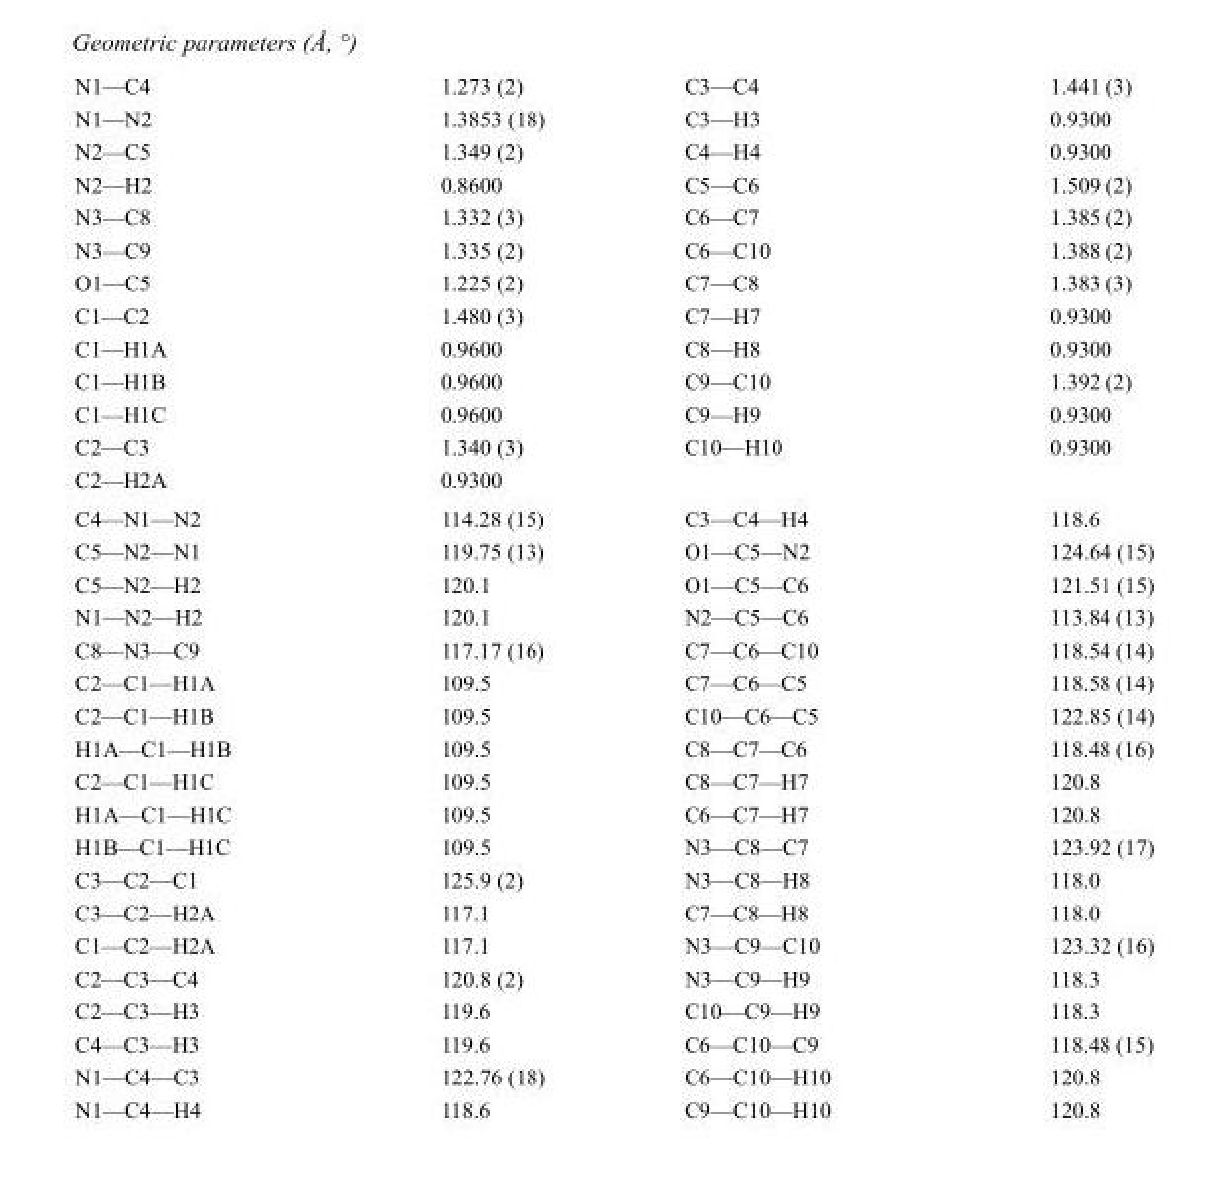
<table><tbody><tr><td>N1—C4</td><td>1.273 (2)</td><td>C3—C4</td><td>1.441 (3)</td></tr><tr><td>N1—N2</td><td>1.3853 (18)</td><td>C3—H3</td><td>0.9300</td></tr><tr><td>N2—C5</td><td>1.349 (2)</td><td>C4—H4</td><td>0.9300</td></tr><tr><td>N2—H2</td><td>0.8600</td><td>C5—C6</td><td>1.509 (2)</td></tr><tr><td>N3—C8</td><td>1.332 (3)</td><td>C6—C7</td><td>1.385 (2)</td></tr><tr><td>N3—C9</td><td>1.335 (2)</td><td>C6—C10</td><td>1.388 (2)</td></tr><tr><td>O1—C5</td><td>1.225 (2)</td><td>C7—C8</td><td>1.383 (3)</td></tr><tr><td>C1—C2</td><td>1.480 (3)</td><td>C7—H7</td><td>0.9300</td></tr><tr><td>C1—H1A</td><td>0.9600</td><td>C8—H8</td><td>0.9300</td></tr><tr><td>C1—H1B</td><td>0.9600</td><td>C9—C10</td><td>1.392 (2)</td></tr><tr><td>C1—H1C</td><td>0.9600</td><td>C9—H9</td><td>0.9300</td></tr><tr><td>C2—C3</td><td>1.340 (3)</td><td>C10—H10</td><td>0.9300</td></tr><tr><td>C2—H2A</td><td>0.9300</td><td></td><td></td></tr><tr><td>C4—N1—N2</td><td>114.28 (15)</td><td>C3—C4—H4</td><td>118.6</td></tr><tr><td>C5—N2—N1</td><td>119.75 (13)</td><td>O1—C5—N2</td><td>124.64 (15)</td></tr><tr><td>C5—N2—H2</td><td>120.1</td><td>O1—C5—C6</td><td>121.51 (15)</td></tr><tr><td>N1—N2—H2</td><td>120.1</td><td>N2—C5—C6</td><td>113.84 (13)</td></tr><tr><td>C8—N3—C9</td><td>117.17 (16)</td><td>C7—C6—C10</td><td>118.54 (14)</td></tr><tr><td>C2—C1—H1A</td><td>109.5</td><td>C7—C6—C5</td><td>118.58 (14)</td></tr><tr><td>C2—C1—H1B</td><td>109.5</td><td>C10—C6—C5</td><td>122.85 (14)</td></tr><tr><td>H1A—C1—H1B</td><td>109.5</td><td>C8—C7—C6</td><td>118.48 (16)</td></tr><tr><td>C2—C1—H1C</td><td>109.5</td><td>C8—C7—H7</td><td>120.8</td></tr><tr><td>H1A—C1—H1C</td><td>109.5</td><td>C6—C7—H7</td><td>120.8</td></tr><tr><td>H1B—C1—H1C</td><td>109.5</td><td>N3—C8—C7</td><td>123.92 (17)</td></tr><tr><td>C3—C2—C1</td><td>125.9 (2)</td><td>N3—C8—H8</td><td>118.0</td></tr><tr><td>C3—C2—H2A</td><td>117.1</td><td>C7—C8—H8</td><td>118.0</td></tr><tr><td>C1—C2—H2A</td><td>117.1</td><td>N3—C9—C10</td><td>123.32 (16)</td></tr><tr><td>C2—C3—C4</td><td>120.8 (2)</td><td>N3—C9—H9</td><td>118.3</td></tr><tr><td>C2—C3—H3</td><td>119.6</td><td>C10—C9—H9</td><td>118.3</td></tr><tr><td>C4—C3—H3</td><td>119.6</td><td>C6—C10—C9</td><td>118.48 (15)</td></tr><tr><td>N1—C4—C3</td><td>122.76 (18)</td><td>C6—C10—H10</td><td>120.8</td></tr><tr><td>N1—C4—H4</td><td>118.6</td><td>C9—C10—H10</td><td>120.8</td></tr></tbody></table>